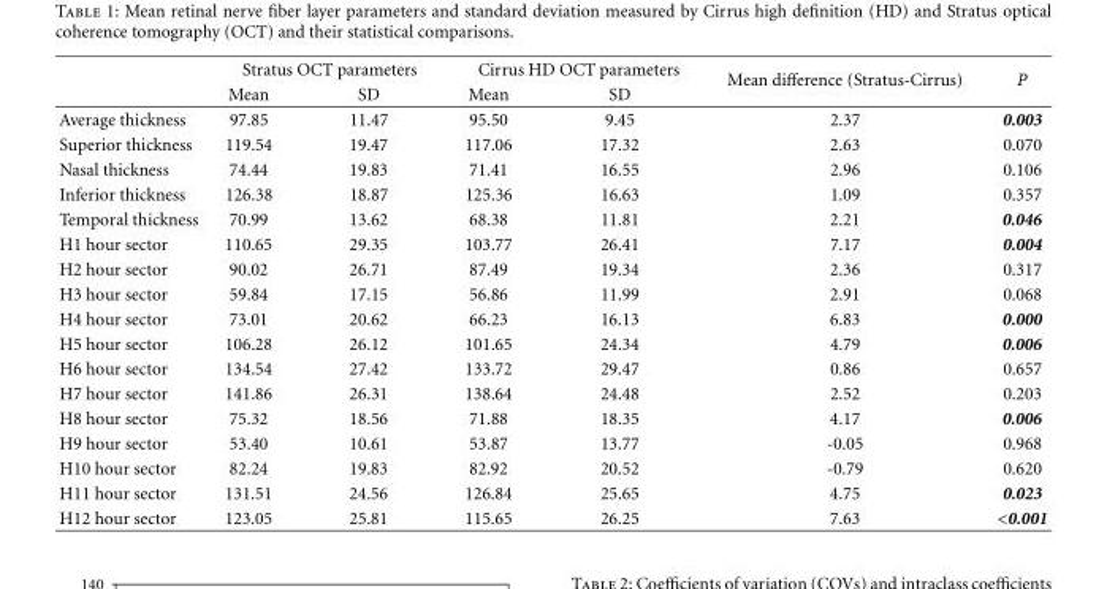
<table><thead><tr><td rowspan="2"></td><td colspan="2">Stratus OCT parameters</td><td colspan="2">Cirrus HD OCT parameters</td><td rowspan="2">Mean difference (Stratus-Cirrus)</td><td rowspan="2">P</td></tr><tr><td>Mean</td><td>SD</td><td>Mean</td><td>SD</td></tr></thead><tbody><tr><td>Average thickness</td><td>97.85</td><td>11.47</td><td>95.50</td><td>9.45</td><td>2.37</td><td>0.003</td></tr><tr><td>Superior thickness</td><td>119.54</td><td>19.47</td><td>117.06</td><td>17.32</td><td>2.63</td><td>0.070</td></tr><tr><td>Nasal thickness</td><td>74.44</td><td>19.83</td><td>71.41</td><td>16.55</td><td>2.96</td><td>0.106</td></tr><tr><td>Inferior thickness</td><td>126.38</td><td>18.87</td><td>125.36</td><td>16.63</td><td>1.09</td><td>0.357</td></tr><tr><td>Temporal thickness</td><td>70.99</td><td>13.62</td><td>68.38</td><td>11.81</td><td>2.21</td><td>0.046</td></tr><tr><td>H1 hour sector</td><td>110.65</td><td>29.35</td><td>103.77</td><td>26.41</td><td>7.17</td><td>0.004</td></tr><tr><td>H2 hour sector</td><td>90.02</td><td>26.71</td><td>87.49</td><td>19.34</td><td>2.36</td><td>0.317</td></tr><tr><td>H3 hour sector</td><td>59.84</td><td>17.15</td><td>56.86</td><td>11.99</td><td>2.91</td><td>0.068</td></tr><tr><td>H4 hour sector</td><td>73.01</td><td>20.62</td><td>66.23</td><td>16.13</td><td>6.83</td><td>0.000</td></tr><tr><td>H5 hour sector</td><td>106.28</td><td>26.12</td><td>101.65</td><td>24.34</td><td>4.79</td><td>0.006</td></tr><tr><td>H6 hour sector</td><td>134.54</td><td>27.42</td><td>133.72</td><td>29.47</td><td>0.86</td><td>0.657</td></tr><tr><td>H7 hour sector</td><td>141.86</td><td>26.31</td><td>138.64</td><td>24.48</td><td>2.52</td><td>0.203</td></tr><tr><td>H8 hour sector</td><td>75.32</td><td>18.56</td><td>71.88</td><td>18.35</td><td>4.17</td><td>0.006</td></tr><tr><td>H9 hour sector</td><td>53.40</td><td>10.61</td><td>53.87</td><td>13.77</td><td>-0.05</td><td>0.968</td></tr><tr><td>H10 hour sector</td><td>82.24</td><td>19.83</td><td>82.92</td><td>20.52</td><td>-0.79</td><td>0.620</td></tr><tr><td>H11 hour sector</td><td>131.51</td><td>24.56</td><td>126.84</td><td>25.65</td><td>4.75</td><td>0.023</td></tr><tr><td>H12 hour sector</td><td>123.05</td><td>25.81</td><td>115.65</td><td>26.25</td><td>7.63</td><td>&lt;0.001</td></tr></tbody></table>